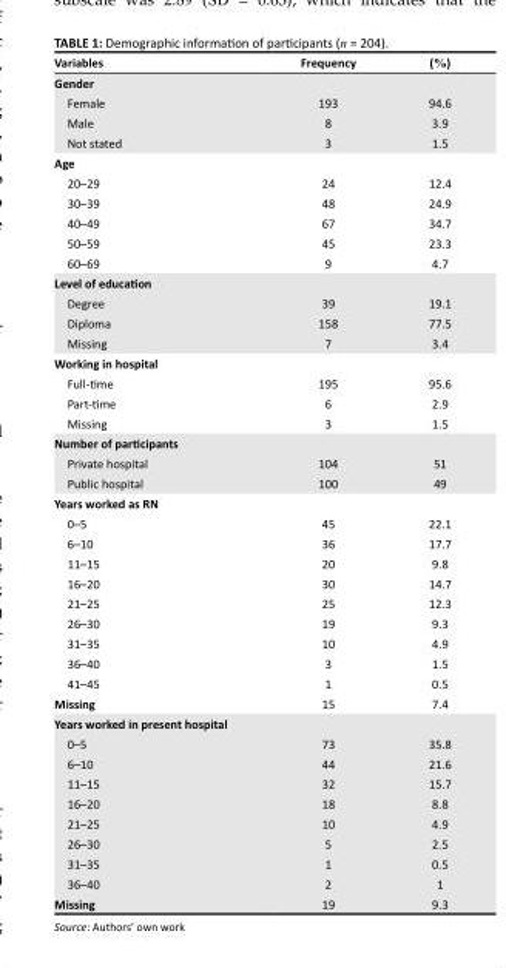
<table><thead><tr><td>Variables</td><td>Frequency</td><td>(%)</td></tr></thead><tbody><tr><td colspan="3">Gender</td></tr><tr><td>Female</td><td>193</td><td>94.6</td></tr><tr><td>Male</td><td>8</td><td>3.9</td></tr><tr><td>Not stated</td><td>3</td><td>1.5</td></tr><tr><td colspan="3">Age</td></tr><tr><td>20–29</td><td>24</td><td>12.4</td></tr><tr><td>30–39</td><td>48</td><td>24.9</td></tr><tr><td>40–49</td><td>67</td><td>34.7</td></tr><tr><td>50–59</td><td>45</td><td>23.3</td></tr><tr><td>60–69</td><td>9</td><td>4.7</td></tr><tr><td colspan="3">Level of education</td></tr><tr><td>Degree</td><td>39</td><td>19.1</td></tr><tr><td>Diploma</td><td>158</td><td>77.5</td></tr><tr><td>Missing</td><td>7</td><td>3.4</td></tr><tr><td colspan="3">Working in hospital</td></tr><tr><td>Full-time</td><td>195</td><td>95.6</td></tr><tr><td>Part-time</td><td>6</td><td>2.9</td></tr><tr><td>Missing</td><td>3</td><td>1.5</td></tr><tr><td colspan="3">Number of participants</td></tr><tr><td>Private hospital</td><td>104</td><td>51</td></tr><tr><td>Public hospital</td><td>100</td><td>49</td></tr><tr><td colspan="3">Years worked as RN</td></tr><tr><td>0–5</td><td>45</td><td>22.1</td></tr><tr><td>6–10</td><td>36</td><td>17.7</td></tr><tr><td>11–15</td><td>20</td><td>9.8</td></tr><tr><td>16–20</td><td>30</td><td>14.7</td></tr><tr><td>21–25</td><td>25</td><td>12.3</td></tr><tr><td>26–30</td><td>19</td><td>9.3</td></tr><tr><td>31–35</td><td>10</td><td>4.9</td></tr><tr><td>36–40</td><td>3</td><td>1.5</td></tr><tr><td>41–45</td><td>1</td><td>0.5</td></tr><tr><td>Missing</td><td>15</td><td>7.4</td></tr><tr><td colspan="3">Years worked in present hospital</td></tr><tr><td>0–5</td><td>73</td><td>35.8</td></tr><tr><td>6–10</td><td>44</td><td>21.6</td></tr><tr><td>11–15</td><td>32</td><td>15.7</td></tr><tr><td>16–20</td><td>18</td><td>8.8</td></tr><tr><td>21–25</td><td>10</td><td>4.9</td></tr><tr><td>26–30</td><td>5</td><td>2.5</td></tr><tr><td>31–35</td><td>1</td><td>0.5</td></tr><tr><td>36–40</td><td>2</td><td>1</td></tr><tr><td>Missing</td><td>19</td><td>9.3</td></tr></tbody></table>